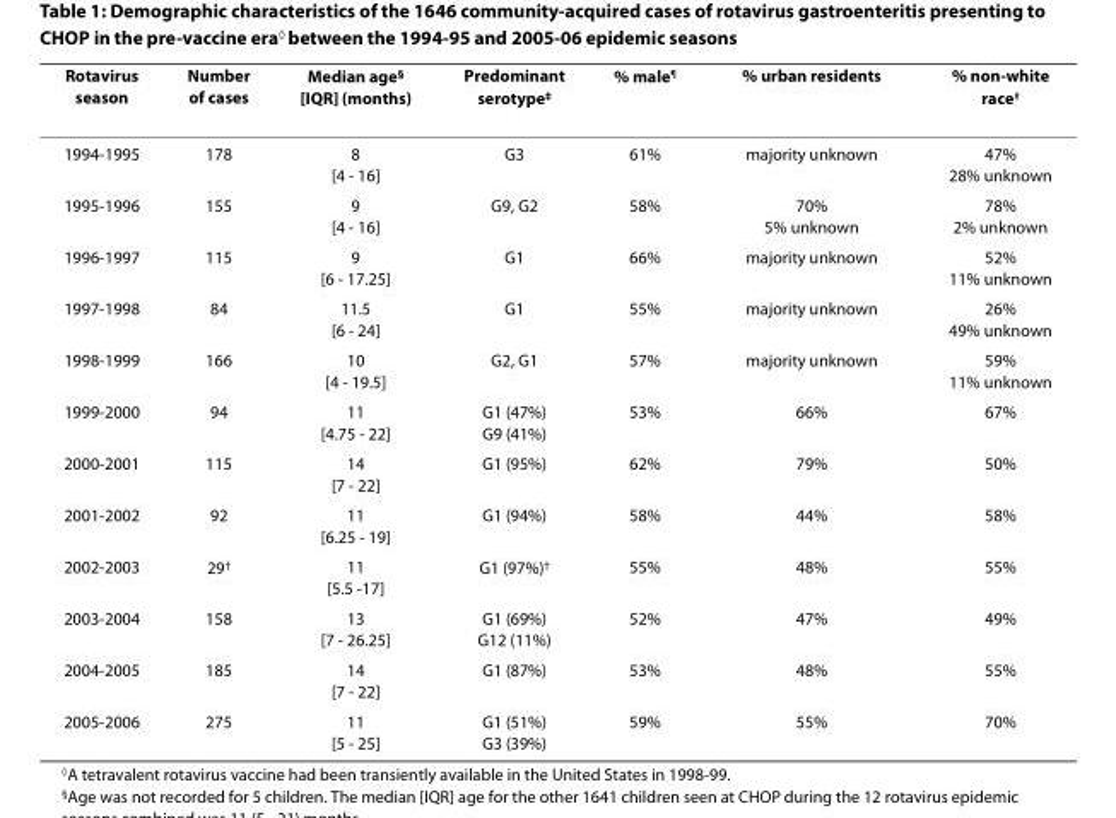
<table><thead><tr><td>Rotavirus season</td><td>Number of cases</td><td>Median age<sup>§</sup> [IQR] (months)</td><td>Predominant serotype<sup>‡</sup></td><td>% male<sup>¶</sup></td><td>% urban residents</td><td>% non-white race<sup>#</sup></td></tr></thead><tbody><tr><td>1994-1995</td><td>178</td><td>8 [4 - 16]</td><td>G3</td><td>61%</td><td>majority unknown</td><td>47% 28% unknown</td></tr><tr><td>1995-1996</td><td>155</td><td>9 [4 - 16]</td><td>G9, G2</td><td>58%</td><td>70% 5% unknown</td><td>78% 2% unknown</td></tr><tr><td>1996-1997</td><td>115</td><td>9 [6 - 17.25]</td><td>G1</td><td>66%</td><td>majority unknown</td><td>52% 11% unknown</td></tr><tr><td>1997-1998</td><td>84</td><td>11.5 [6 - 24]</td><td>G1</td><td>55%</td><td>majority unknown</td><td>26% 49% unknown</td></tr><tr><td>1998-1999</td><td>166</td><td>10 [4 - 19.5]</td><td>G2, G1</td><td>57%</td><td>majority unknown</td><td>59% 11% unknown</td></tr><tr><td>1999-2000</td><td>94</td><td>11 [4.75 - 22]</td><td>G1 (47%) G9 (41%)</td><td>53%</td><td>66%</td><td>67%</td></tr><tr><td>2000-2001</td><td>115</td><td>14 [7 - 22]</td><td>G1 (95%)</td><td>62%</td><td>79%</td><td>50%</td></tr><tr><td>2001-2002</td><td>92</td><td>11 [6.25 - 19]</td><td>G1 (94%)</td><td>58%</td><td>44%</td><td>58%</td></tr><tr><td>2002-2003</td><td>29<sup>†</sup></td><td>11 [5.5 -17]</td><td>G1 (97%)<sup>†</sup></td><td>55%</td><td>48%</td><td>55%</td></tr><tr><td>2003-2004</td><td>158</td><td>13 [7 - 26.25]</td><td>G1 (69%) G12 (11%)</td><td>52%</td><td>47%</td><td>49%</td></tr><tr><td>2004-2005</td><td>185</td><td>14 [7 - 22]</td><td>G1 (87%)</td><td>53%</td><td>48%</td><td>55%</td></tr><tr><td>2005-2006</td><td>275</td><td>11 [5 - 25]</td><td>G1 (51%) G3 (39%)</td><td>59%</td><td>55%</td><td>70%</td></tr></tbody></table>